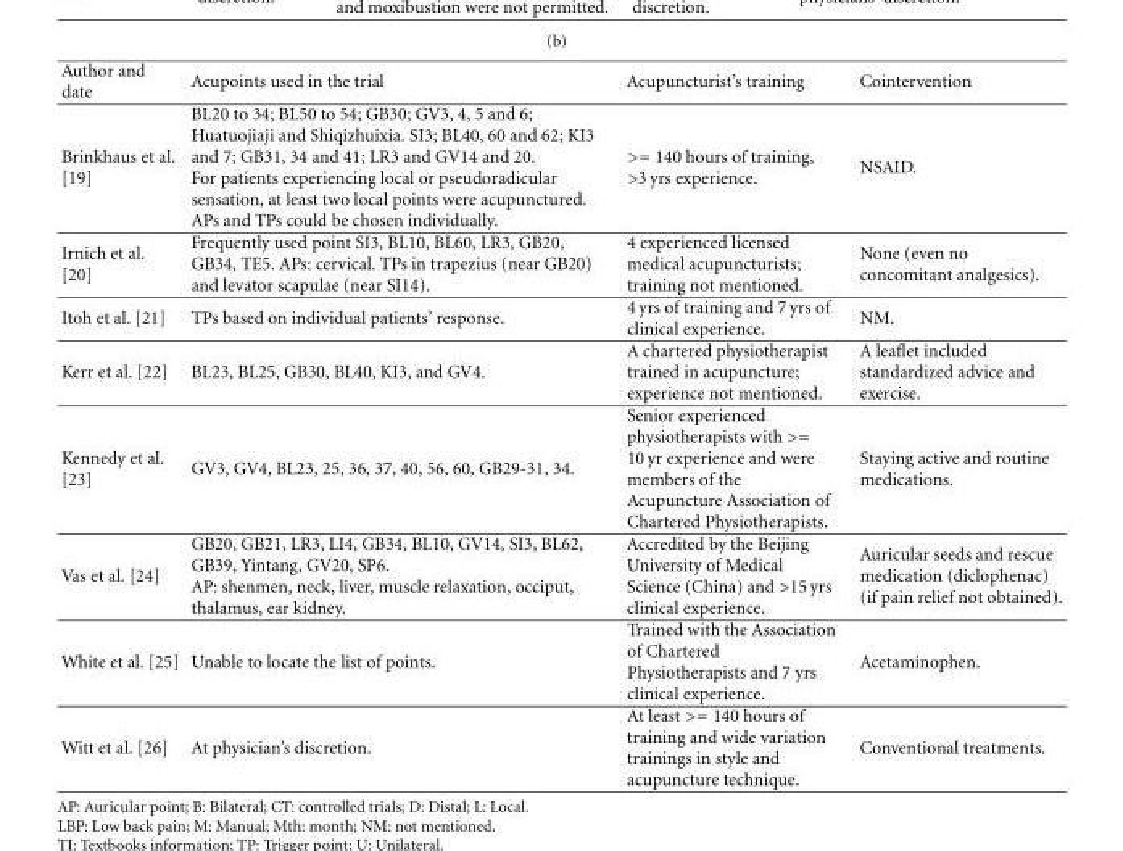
<table><thead><tr><td>Author and date</td><td>Acupoints used in the trial</td><td>Acupuncturist’s training</td><td>Cointervention</td></tr></thead><tbody><tr><td>Brinkhaus et al. [19]</td><td>BL20 to 34; BL50 to 54; GB30; GV3, 4, 5 and 6; Huatuojiaji and Shiqizhuixia. SI3; BL40, 60 and 62; KI3 and 7; GB31, 34 and 41; LR3 and GV14 and 20. For patients experiencing local or pseudoradicular sensation, at least two local points were acupunctured. APs and TPs could be chosen individually.</td><td>&gt;= 140 hours of training, &gt;3 yrs experience.</td><td>NSAID.</td></tr><tr><td>Irnich et al. [20]</td><td>Frequently used point SI3, BL10, BL60, LR3, GB20, GB34, TE5. APs: cervical. TPs in trapezius (near GB20) and levator scapulae (near SI14).</td><td>4 experienced licensed medical acupuncturists; training not mentioned.</td><td>None (even no concomitant analgesics).</td></tr><tr><td>Itoh et al. [21]</td><td>TPs based on individual patients’ response.</td><td>4 yrs of training and 7 yrs of clinical experience.</td><td>NM.</td></tr><tr><td>Kerr et al. [22]</td><td>BL23, BL25, GB30, BL40, KI3, and GV4.</td><td>A chartered physiotherapist trained in acupuncture; experience not mentioned.</td><td>A leaflet included standardized advice and exercise.</td></tr><tr><td>Kennedy et al. [23]</td><td>GV3, GV4, BL23, 25, 36, 37, 40, 56, 60, GB29-31, 34.</td><td>Senior experienced physiotherapists with &gt;= 10 yr experience and were members of the Acupuncture Association of Chartered Physiotherapists.</td><td>Staying active and routine medications.</td></tr><tr><td>Vas et al. [24]</td><td>GB20, GB21, LR3, LI4, GB34, BL10, GV14, SI3, BL62, GB39, Yintang, GV20, SP6. AP: shenmen, neck, liver, muscle relaxation, occiput, thalamus, ear kidney.</td><td>Accredited by the Beijing University of Medical Science (China) and &gt;15 yrs clinical experience.</td><td>Auricular seeds and rescue medication (diclophenac) (if pain relief not obtained).</td></tr><tr><td>White et al. [25]</td><td>Unable to locate the list of points.</td><td>Trained with the Association of Chartered Physiotherapists and 7 yrs clinical experience.</td><td>Acetaminophen.</td></tr><tr><td>Witt et al. [26]</td><td>At physician’s discretion.</td><td>At least &gt;= 140 hours of training and wide variation trainings in style and acupuncture technique.</td><td>Conventional treatments.</td></tr></tbody></table>